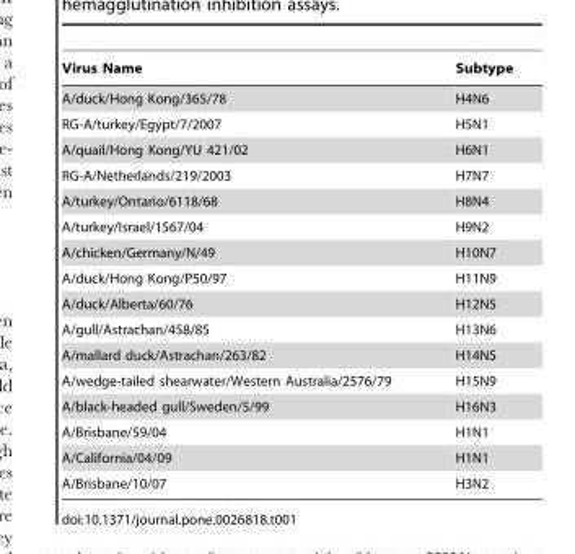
<table><thead><tr><td>Virus Name</td><td>Subtype</td></tr></thead><tbody><tr><td>A/duck/Hong Kong/365/78</td><td>H4N6</td></tr><tr><td>RG-A/turkey/Egypt/7/2007</td><td>H5N1</td></tr><tr><td>A/quail/Hong Kong/YU 421/02</td><td>H6N1</td></tr><tr><td>RG-A/Netherlands/219/2003</td><td>H7N7</td></tr><tr><td>A/turkey/Ontario/6118/68</td><td>H8N4</td></tr><tr><td>A/turkey/Israel/1567/04</td><td>H9N2</td></tr><tr><td>A/chicken/Germany/N/49</td><td>H10N7</td></tr><tr><td>A/duck/Hong Kong/P50/97</td><td>H11N9</td></tr><tr><td>A/duck/Alberta/60/76</td><td>H12N5</td></tr><tr><td>A/gull/Astrachan/458/85</td><td>H13N6</td></tr><tr><td>A/mallard duck/Astrachan/263/82</td><td>H14N5</td></tr><tr><td>A/wedge-tailed shearwater/Western Australia/2576/79</td><td>H15N9</td></tr><tr><td>A/black-headed gull/Sweden/5/99</td><td>H16N3</td></tr><tr><td>A/Brisbane/59/04</td><td>H1N1</td></tr><tr><td>A/California/04/09</td><td>H1N1</td></tr><tr><td>A/Brisbane/10/07</td><td>H3N2</td></tr></tbody></table>